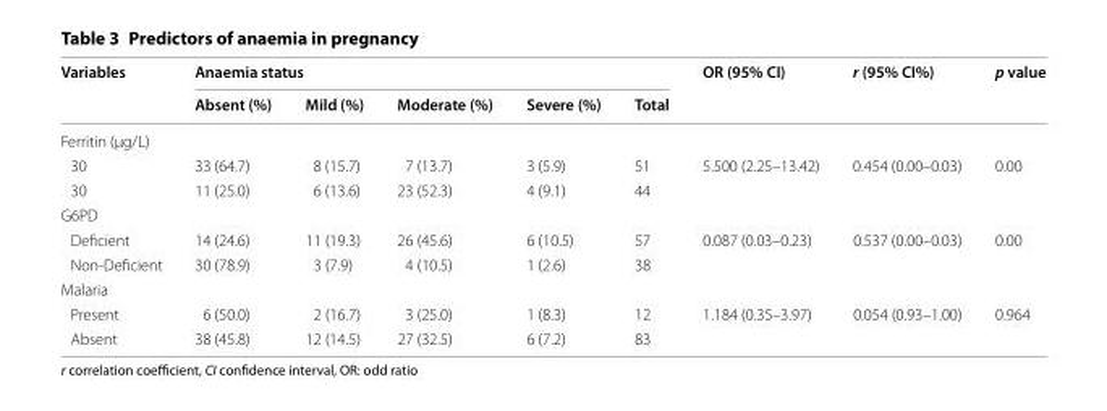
<table><thead><tr><td rowspan="2">Variables</td><td colspan="5">Anaemia status</td><td rowspan="2">OR (95% CI)</td><td rowspan="2">r (95% CI%)</td><td rowspan="2">p value</td></tr><tr><td>Absent (%)</td><td>Mild (%)</td><td>Moderate (%)</td><td>Severe (%)</td><td>Total</td></tr></thead><tbody><tr><td colspan="9">Ferritin (μg/L)</td></tr><tr><td>30</td><td>33 (64.7)</td><td>8 (15.7)</td><td>7 (13.7)</td><td>3 (5.9)</td><td>51</td><td rowspan="2">5.500 (2.25–13.42)</td><td rowspan="2">0.454 (0.00–0.03)</td><td rowspan="2">0.00</td></tr><tr><td>30</td><td>11 (25.0)</td><td>6 (13.6)</td><td>23 (52.3)</td><td>4 (9.1)</td><td>44</td></tr><tr><td colspan="9">G6PD</td></tr><tr><td>Deficient</td><td>14 (24.6)</td><td>11 (19.3)</td><td>26 (45.6)</td><td>6 (10.5)</td><td>57</td><td rowspan="2">0.087 (0.03–0.23)</td><td rowspan="2">0.537 (0.00–0.03)</td><td rowspan="2">0.00</td></tr><tr><td>Non‑Deficient</td><td>30 (78.9)</td><td>3 (7.9)</td><td>4 (10.5)</td><td>1 (2.6)</td><td>38</td></tr><tr><td colspan="9">Malaria</td></tr><tr><td>Present</td><td>6 (50.0)</td><td>2 (16.7)</td><td>3 (25.0)</td><td>1 (8.3)</td><td>12</td><td rowspan="2">1.184 (0.35–3.97)</td><td rowspan="2">0.054 (0.93–1.00)</td><td rowspan="2">0.964</td></tr><tr><td>Absent</td><td>38 (45.8)</td><td>12 (14.5)</td><td>27 (32.5)</td><td>6 (7.2)</td><td>83</td></tr></tbody></table>